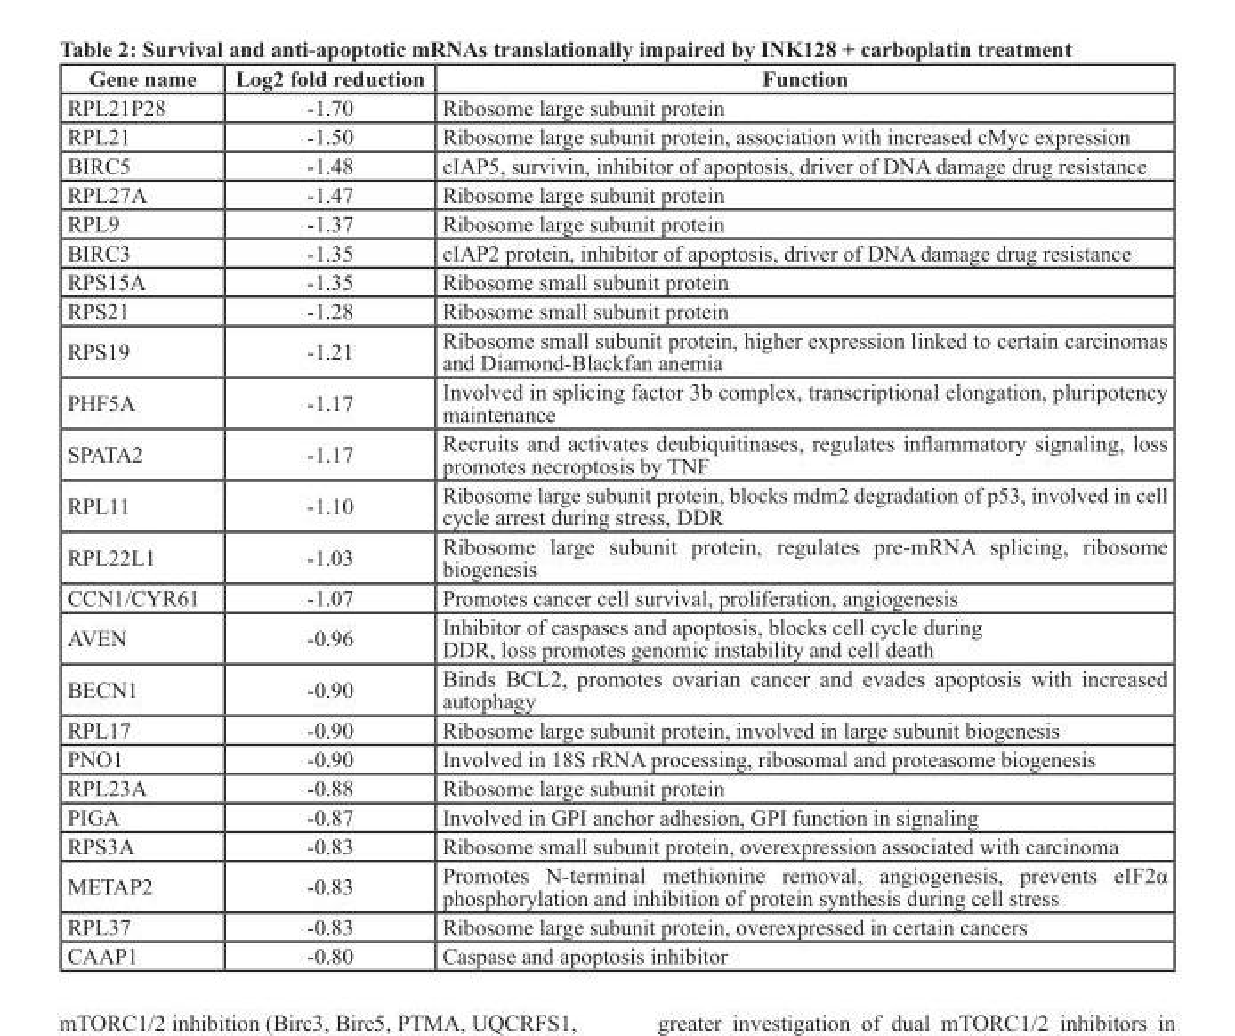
<table><thead><tr><td>Gene name</td><td>Log2 fold reduction</td><td>Function</td></tr></thead><tbody><tr><td>RPL21P28</td><td>-1.70</td><td>Ribosome large subunit protein</td></tr><tr><td>RPL21</td><td>-1.50</td><td>Ribosome large subunit protein, association with increased cMyc expression</td></tr><tr><td>BIRC5</td><td>-1.48</td><td>cIAP5, survivin, inhibitor of apoptosis, driver of DNA damage drug resistance</td></tr><tr><td>RPL27A</td><td>-1.47</td><td>Ribosome large subunit protein</td></tr><tr><td>RPL9</td><td>-1.37</td><td>Ribosome large subunit protein</td></tr><tr><td>BIRC3</td><td>-1.35</td><td>cIAP2 protein, inhibitor of apoptosis, driver of DNA damage drug resistance</td></tr><tr><td>RPS15A</td><td>-1.35</td><td>Ribosome small subunit protein</td></tr><tr><td>RPS21</td><td>-1.28</td><td>Ribosome small subunit protein</td></tr><tr><td>RPS19</td><td>-1.21</td><td>Ribosome small subunit protein, higher expression linked to certain carcinomas and Diamond-Blackfan anemia</td></tr><tr><td>PHF5A</td><td>-1.17</td><td>Involved in splicing factor 3b complex, transcriptional elongation, pluripotency maintenance</td></tr><tr><td>SPATA2</td><td>-1.17</td><td>Recruits and activates deubiquitinases, regulates inflammatory signaling, loss promotes necroptosis by TNF</td></tr><tr><td>RPL11</td><td>-1.10</td><td>Ribosome large subunit protein, blocks mdm2 degradation of p53, involved in cell cycle arrest during stress, DDR</td></tr><tr><td>RPL22L1</td><td>-1.03</td><td>Ribosome large subunit protein, regulates pre-mRNA splicing, ribosome biogenesis</td></tr><tr><td>CCN1/CYR61</td><td>-1.07</td><td>Promotes cancer cell survival, proliferation, angiogenesis</td></tr><tr><td>AVEN</td><td>-0.96</td><td>Inhibitor of caspases and apoptosis, blocks cell cycle during DDR, loss promotes genomic instability and cell death</td></tr><tr><td>BECN1</td><td>-0.90</td><td>Binds BCL2, promotes ovarian cancer and evades apoptosis with increased autophagy</td></tr><tr><td>RPL17</td><td>-0.90</td><td>Ribosome large subunit protein, involved in large subunit biogenesis</td></tr><tr><td>PNO1</td><td>-0.90</td><td>Involved in 18S rRNA processing, ribosomal and proteasome biogenesis</td></tr><tr><td>RPL23A</td><td>-0.88</td><td>Ribosome large subunit protein</td></tr><tr><td>PIGA</td><td>-0.87</td><td>Involved in GPI anchor adhesion, GPI function in signaling</td></tr><tr><td>RPS3A</td><td>-0.83</td><td>Ribosome small subunit protein, overexpression associated with carcinoma</td></tr><tr><td>METAP2</td><td>-0.83</td><td>Promotes N-terminal methionine removal, angiogenesis, prevents eIF2α phosphorylation and inhibition of protein synthesis during cell stress</td></tr><tr><td>RPL37</td><td>-0.83</td><td>Ribosome large subunit protein, overexpressed in certain cancers</td></tr><tr><td>CAAP1</td><td>-0.80</td><td>Caspase and apoptosis inhibitor</td></tr></tbody></table>